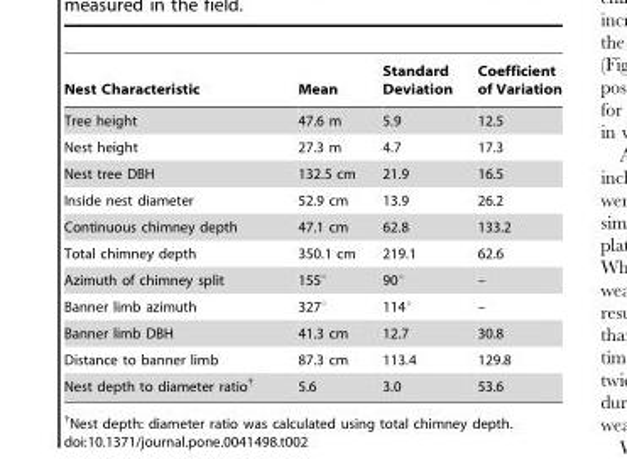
<table><thead><tr><td>Nest Characteristic</td><td>Mean</td><td>Standard Deviation</td><td>Coefficient of Variation</td></tr></thead><tbody><tr><td>Tree height</td><td>47.6 m</td><td>5.9</td><td>12.5</td></tr><tr><td>Nest height</td><td>27.3 m</td><td>4.7</td><td>17.3</td></tr><tr><td>Nest tree DBH</td><td>132.5 cm</td><td>21.9</td><td>16.5</td></tr><tr><td>Inside nest diameter</td><td>52.9 cm</td><td>13.9</td><td>26.2</td></tr><tr><td>Continuous chimney depth</td><td>47.1 cm</td><td>62.8</td><td>133.2</td></tr><tr><td>Total chimney depth</td><td>350.1 cm</td><td>219.1</td><td>62.6</td></tr><tr><td>Azimuth of chimney split</td><td>155°</td><td>90°</td><td>–</td></tr><tr><td>Banner limb azimuth</td><td>327°</td><td>114°</td><td>–</td></tr><tr><td>Banner limb DBH</td><td>41.3 cm</td><td>12.7</td><td>30.8</td></tr><tr><td>Distance to banner limb</td><td>87.3 cm</td><td>113.4</td><td>129.8</td></tr><tr><td>Nest depth to diameter ratio†</td><td>5.6</td><td>3.0</td><td>53.6</td></tr></tbody></table>